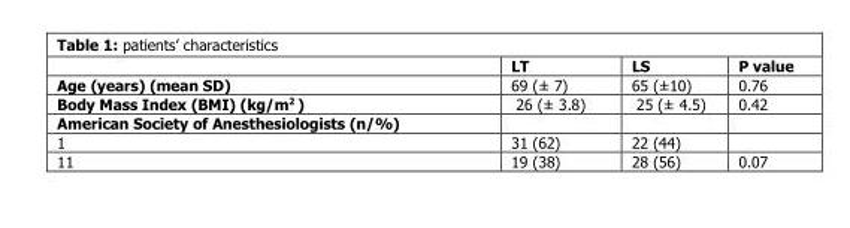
<table><thead><tr><td></td><td>LT</td><td>LS</td><td>P value</td></tr></thead><tbody><tr><td>Age (years) (mean SD)</td><td>69 (± 7)</td><td>65 (±10)</td><td>0.76</td></tr><tr><td>Body Mass Index (BMI) (kg/m<sup>2</sup> )</td><td>26 (± 3.8)</td><td>25 (± 4.5)</td><td>0.42</td></tr><tr><td colspan="4">American Society of Anesthesiologists (n/%)</td></tr><tr><td>1</td><td>31 (62)</td><td>22 (44)</td><td></td></tr><tr><td>11</td><td>19 (38)</td><td>28 (56)</td><td>0.07</td></tr></tbody></table>